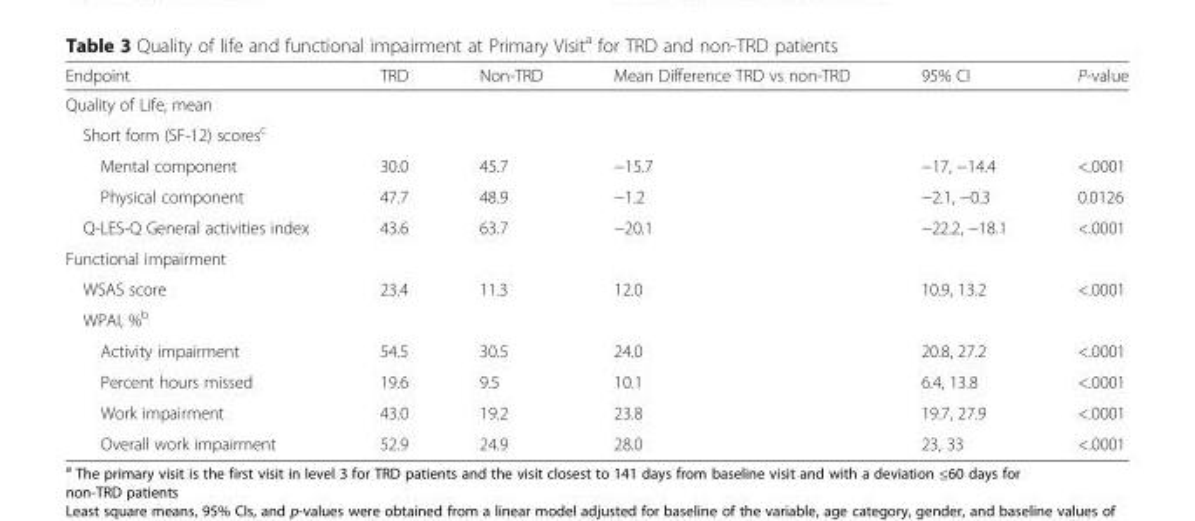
<table><thead><tr><td>Endpoint</td><td>TRD</td><td>Non-TRD</td><td>Mean Difference TRD vs non-TRD</td><td>95% CI</td><td>P-value</td></tr></thead><tbody><tr><td colspan="6">Quality of Life, mean</td></tr><tr><td colspan="6">Short form (SF-12) scores<sup>c</sup></td></tr><tr><td>Mental component</td><td>30.0</td><td>45.7</td><td>−15.7</td><td>−17, −14.4</td><td>&lt;.0001</td></tr><tr><td>Physical component</td><td>47.7</td><td>48.9</td><td>−1.2</td><td>−2.1, −0.3</td><td>0.0126</td></tr><tr><td>Q-LES-Q General activities index</td><td>43.6</td><td>63.7</td><td>−20.1</td><td>−22.2, −18.1</td><td>&lt;.0001</td></tr><tr><td colspan="6">Functional impairment</td></tr><tr><td>WSAS score</td><td>23.4</td><td>11.3</td><td>12.0</td><td>10.9, 13.2</td><td>&lt;.0001</td></tr><tr><td colspan="6">WPAI, %<sup>b</sup></td></tr><tr><td>Activity impairment</td><td>54.5</td><td>30.5</td><td>24.0</td><td>20.8, 27.2</td><td>&lt;.0001</td></tr><tr><td>Percent hours missed</td><td>19.6</td><td>9.5</td><td>10.1</td><td>6.4, 13.8</td><td>&lt;.0001</td></tr><tr><td>Work impairment</td><td>43.0</td><td>19.2</td><td>23.8</td><td>19.7, 27.9</td><td>&lt;.0001</td></tr><tr><td>Overall work impairment</td><td>52.9</td><td>24.9</td><td>28.0</td><td>23, 33</td><td>&lt;.0001</td></tr></tbody></table>